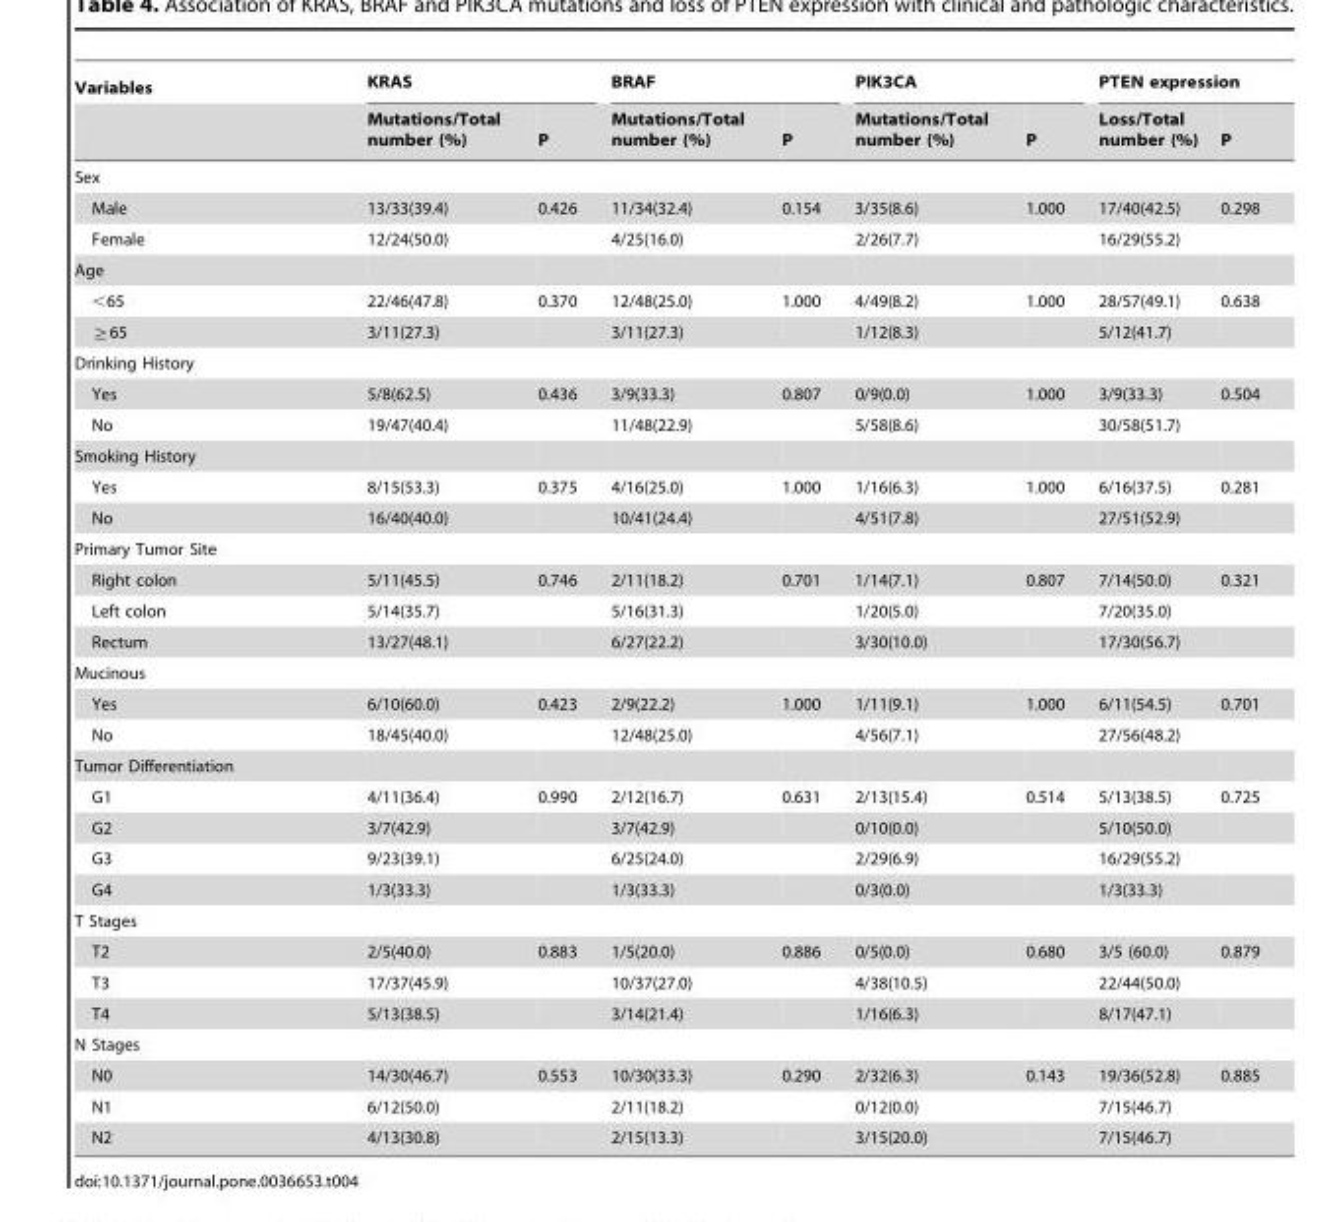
<table><thead><tr><td rowspan="2">Variables</td><td colspan="2">KRAS</td><td colspan="2">BRAF</td><td colspan="2">PIK3CA</td><td colspan="2">PTEN expression</td></tr><tr><td>Mutations/Total number (%)</td><td>P</td><td>Mutations/Total number (%)</td><td>P</td><td>Mutations/Total number (%)</td><td>P</td><td>Loss/Total number (%)</td><td>P</td></tr></thead><tbody><tr><td colspan="9">Sex</td></tr><tr><td>Male</td><td>13/33(39.4)</td><td>0.426</td><td>11/34(32.4)</td><td>0.154</td><td>3/35(8.6)</td><td>1.000</td><td>17/40(42.5)</td><td>0.298</td></tr><tr><td>Female</td><td>12/24(50.0)</td><td></td><td>4/25(16.0)</td><td></td><td>2/26(7.7)</td><td></td><td>16/29(55.2)</td><td></td></tr><tr><td colspan="9">Age</td></tr><tr><td>&lt;65</td><td>22/46(47.8)</td><td>0.370</td><td>12/48(25.0)</td><td>1.000</td><td>4/49(8.2)</td><td>1.000</td><td>28/57(49.1)</td><td>0.638</td></tr><tr><td>≧65</td><td>3/11(27.3)</td><td></td><td>3/11(27.3)</td><td></td><td>1/12(8.3)</td><td></td><td>5/12(41.7)</td><td></td></tr><tr><td colspan="9">Drinking History</td></tr><tr><td>Yes</td><td>5/8(62.5)</td><td>0.436</td><td>3/9(33.3)</td><td>0.807</td><td>0/9(0.0)</td><td>1.000</td><td>3/9(33.3)</td><td>0.504</td></tr><tr><td>No</td><td>19/47(40.4)</td><td></td><td>11/48(22.9)</td><td></td><td>5/58(8.6)</td><td></td><td>30/58(51.7)</td><td></td></tr><tr><td colspan="9">Smoking History</td></tr><tr><td>Yes</td><td>8/15(53.3)</td><td>0.375</td><td>4/16(25.0)</td><td>1.000</td><td>1/16(6.3)</td><td>1.000</td><td>6/16(37.5)</td><td>0.281</td></tr><tr><td>No</td><td>16/40(40.0)</td><td></td><td>10/41(24.4)</td><td></td><td>4/51(7.8)</td><td></td><td>27/51(52.9)</td><td></td></tr><tr><td colspan="9">Primary Tumor Site</td></tr><tr><td>Right colon</td><td>5/11(45.5)</td><td>0.746</td><td>2/11(18.2)</td><td>0.701</td><td>1/14(7.1)</td><td>0.807</td><td>7/14(50.0)</td><td>0.321</td></tr><tr><td>Left colon</td><td>5/14(35.7)</td><td></td><td>5/16(31.3)</td><td></td><td>1/20(5.0)</td><td></td><td>7/20(35.0)</td><td></td></tr><tr><td>Rectum</td><td>13/27(48.1)</td><td></td><td>6/27(22.2)</td><td></td><td>3/30(10.0)</td><td></td><td>17/30(56.7)</td><td></td></tr><tr><td colspan="9">Mucinous</td></tr><tr><td>Yes</td><td>6/10(60.0)</td><td>0.423</td><td>2/9(22.2)</td><td>1.000</td><td>1/11(9.1)</td><td>1.000</td><td>6/11(54.5)</td><td>0.701</td></tr><tr><td>No</td><td>18/45(40.0)</td><td></td><td>12/48(25.0)</td><td></td><td>4/56(7.1)</td><td></td><td>27/56(48.2)</td><td></td></tr><tr><td colspan="9">Tumor Differentiation</td></tr><tr><td>G1</td><td>4/11(36.4)</td><td>0.990</td><td>2/12(16.7)</td><td>0.631</td><td>2/13(15.4)</td><td>0.514</td><td>5/13(38.5)</td><td>0.725</td></tr><tr><td>G2</td><td>3/7(42.9)</td><td></td><td>3/7(42.9)</td><td></td><td>0/10(0.0)</td><td></td><td>5/10(50.0)</td><td></td></tr><tr><td>G3</td><td>9/23(39.1)</td><td></td><td>6/25(24.0)</td><td></td><td>2/29(6.9)</td><td></td><td>16/29(55.2)</td><td></td></tr><tr><td>G4</td><td>1/3(33.3)</td><td></td><td>1/3(33.3)</td><td></td><td>0/3(0.0)</td><td></td><td>1/3(33.3)</td><td></td></tr><tr><td colspan="9">T Stages</td></tr><tr><td>T2</td><td>2/5(40.0)</td><td>0.883</td><td>1/5(20.0)</td><td>0.886</td><td>0/5(0.0)</td><td>0.680</td><td>3/5 (60.0)</td><td>0.879</td></tr><tr><td>T3</td><td>17/37(45.9)</td><td></td><td>10/37(27.0)</td><td></td><td>4/38(10.5)</td><td></td><td>22/44(50.0)</td><td></td></tr><tr><td>T4</td><td>5/13(38.5)</td><td></td><td>3/14(21.4)</td><td></td><td>1/16(6.3)</td><td></td><td>8/17(47.1)</td><td></td></tr><tr><td colspan="9">N Stages</td></tr><tr><td>N0</td><td>14/30(46.7)</td><td>0.553</td><td>10/30(33.3)</td><td>0.290</td><td>2/32(6.3)</td><td>0.143</td><td>19/36(52.8)</td><td>0.885</td></tr><tr><td>N1</td><td>6/12(50.0)</td><td></td><td>2/11(18.2)</td><td></td><td>0/12(0.0)</td><td></td><td>7/15(46.7)</td><td></td></tr><tr><td>N2</td><td>4/13(30.8)</td><td></td><td>2/15(13.3)</td><td></td><td>3/15(20.0)</td><td></td><td>7/15(46.7)</td><td></td></tr></tbody></table>